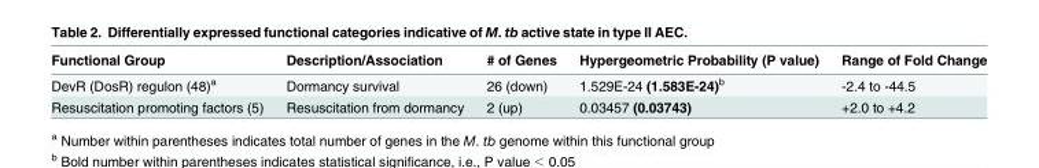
<table><thead><tr><td>Functional Group</td><td>Description/Association</td><td># of Genes</td><td>Hypergeometric Probability (P value)</td><td>Range of Fold Change</td></tr></thead><tbody><tr><td>DevR (DosR) regulon (48)<sup>a</sup></td><td>Dormancy survival</td><td>26 (down)</td><td>1.529E-24 (1.583E-24)<sup>b</sup></td><td>-2.4 to -44.5</td></tr><tr><td>Resuscitation promoting factors (5)</td><td>Resuscitation from dormancy</td><td>2 (up)</td><td>0.03457 (0.03743)</td><td>+2.0 to +4.2</td></tr></tbody></table>